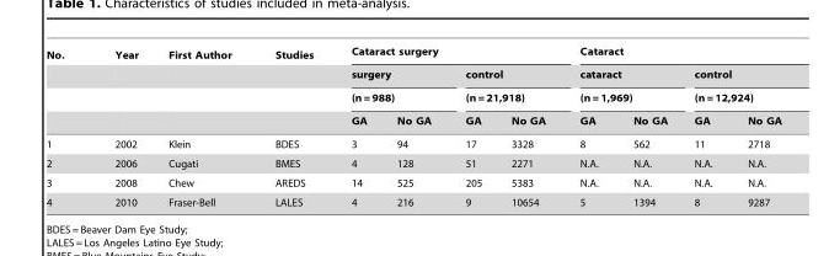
<table><thead><tr><td rowspan="4">No.</td><td rowspan="4">Year</td><td rowspan="4">First Author</td><td rowspan="4">Studies</td><td colspan="4">Cataract surgery</td><td colspan="4">Cataract</td></tr><tr><td rowspan="2" colspan="2">surgery (n = 988)</td><td rowspan="2" colspan="2">control (n = 21,918)</td><td rowspan="2" colspan="2">cataract (n = 1,969)</td><td rowspan="2" colspan="2">control (n = 12,924)</td></tr><tr></tr><tr><td>GA</td><td>No GA</td><td>GA</td><td>No GA</td><td>GA</td><td>No GA</td><td>GA</td><td>No GA</td></tr></thead><tbody><tr><td>1</td><td>2002</td><td>Klein</td><td>BDES</td><td>3</td><td>94</td><td>17</td><td>3328</td><td>8</td><td>562</td><td>11</td><td>2718</td></tr><tr><td>2</td><td>2006</td><td>Cugati</td><td>BMES</td><td>4</td><td>128</td><td>51</td><td>2271</td><td>N.A.</td><td>N.A.</td><td>N.A.</td><td>N.A.</td></tr><tr><td>3</td><td>2008</td><td>Chew</td><td>AREDS</td><td>14</td><td>525</td><td>205</td><td>5383</td><td>N.A.</td><td>N.A.</td><td>N.A.</td><td>N.A.</td></tr><tr><td>4</td><td>2010</td><td>Fraser-Bell</td><td>LALES</td><td>4</td><td>216</td><td>9</td><td>10654</td><td>5</td><td>1394</td><td>8</td><td>9287</td></tr></tbody></table>